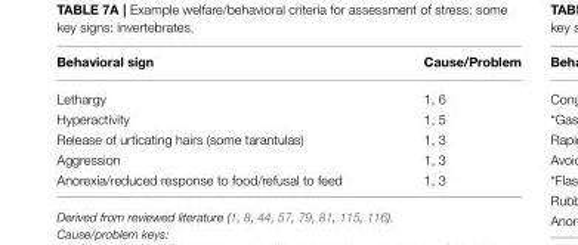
<table><thead><tr><td>Behavioral sign</td><td>Cause/Problem</td></tr></thead><tbody><tr><td>Lethargy</td><td>1, 6</td></tr><tr><td>Hyperactivity</td><td>1, 5</td></tr><tr><td>Release of urticating hairs (some tarantulas)</td><td>1, 3</td></tr><tr><td>Aggression</td><td>1, 3</td></tr><tr><td>Anorexia/reduced response to food/refusal to feed</td><td>1, 3</td></tr></tbody></table>